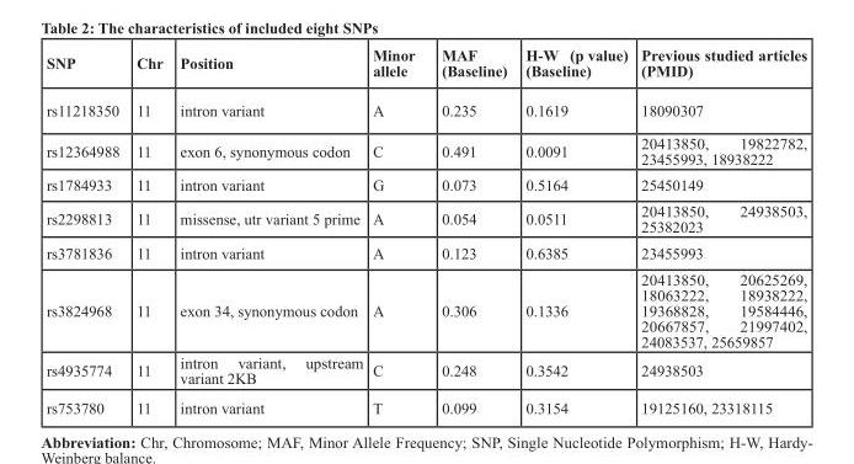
<table><thead><tr><td>SNP</td><td>Chr</td><td>Position</td><td>Minor allele</td><td>MAF (Baseline)</td><td>H-W (p value) (Baseline)</td><td>Previous studied articles (PMID)</td></tr></thead><tbody><tr><td>rs11218350</td><td>11</td><td>intron variant</td><td>A</td><td>0.235</td><td>0.1619</td><td>18090307</td></tr><tr><td>rs12364988</td><td>11</td><td>exon 6, synonymous codon</td><td>C</td><td>0.491</td><td>0.0091</td><td>20413850, 19822782, 23455993, 18938222</td></tr><tr><td>rs1784933</td><td>11</td><td>intron variant</td><td>G</td><td>0.073</td><td>0.5164</td><td>25450149</td></tr><tr><td>rs2298813</td><td>11</td><td>missense, utr variant 5 prime</td><td>A</td><td>0.054</td><td>0.0511</td><td>20413850, 24938503, 25382023</td></tr><tr><td>rs3781836</td><td>11</td><td>intron variant</td><td>A</td><td>0.123</td><td>0.6385</td><td>23455993</td></tr><tr><td>rs3824968</td><td>11</td><td>exon 34, synonymous codon</td><td>A</td><td>0.306</td><td>0.1336</td><td>20413850, 20625269, 18063222, 18938222, 19368828, 19584446, 20667857, 21997402, 24083537, 25659857</td></tr><tr><td>rs4935774</td><td>11</td><td>intron variant, upstream variant 2KB</td><td>C</td><td>0.248</td><td>0.3542</td><td>24938503</td></tr><tr><td>rs753780</td><td>11</td><td>intron variant</td><td>T</td><td>0.099</td><td>0.3154</td><td>19125160, 23318115</td></tr></tbody></table>